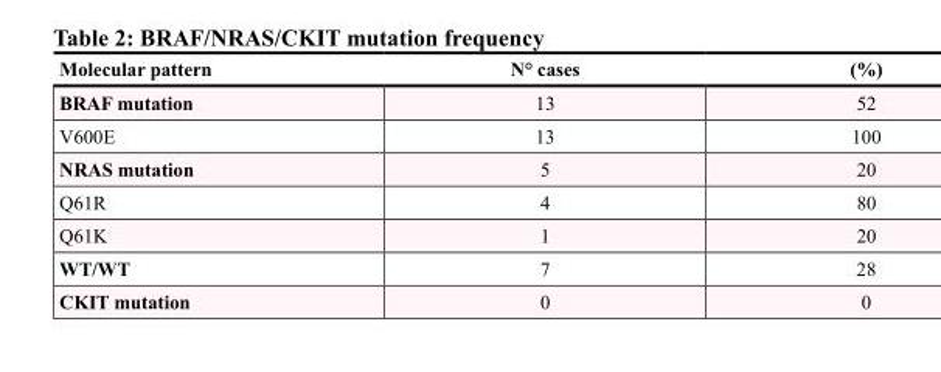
<table><thead><tr><td>Molecular pattern</td><td>N° cases</td><td>(%)</td></tr></thead><tbody><tr><td>BRAF mutation</td><td>13</td><td>52</td></tr><tr><td>V600E</td><td>13</td><td>100</td></tr><tr><td>NRAS mutation</td><td>5</td><td>20</td></tr><tr><td>Q61R</td><td>4</td><td>80</td></tr><tr><td>Q61K</td><td>1</td><td>20</td></tr><tr><td>WT/WT</td><td>7</td><td>28</td></tr><tr><td>CKIT mutation</td><td>0</td><td>0</td></tr></tbody></table>